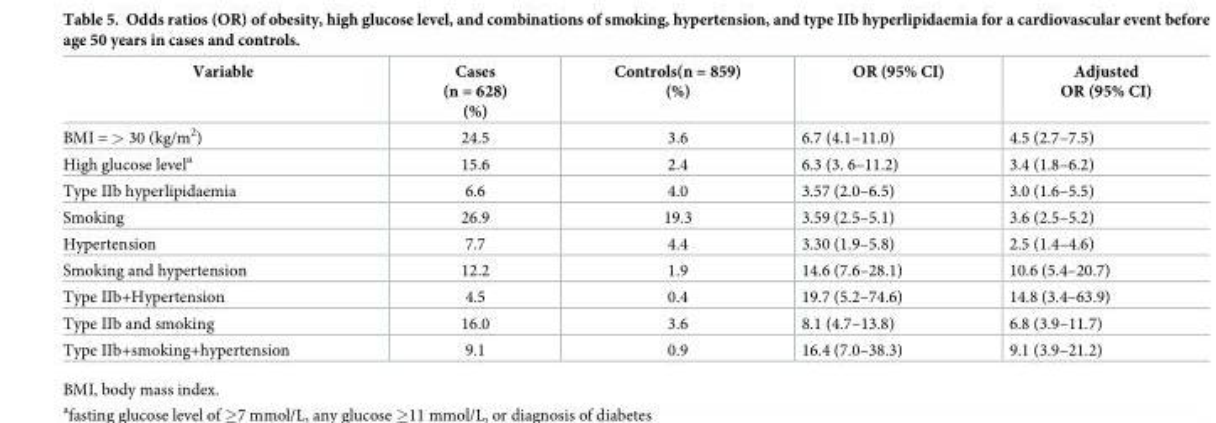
<table><thead><tr><td>Variable</td><td>Cases (n = 628) (%)</td><td>Controls(n = 859) (%)</td><td>OR (95% CI)</td><td>Adjusted OR (95% CI)</td></tr></thead><tbody><tr><td>BMI = &gt; 30 (kg/m<sup>2</sup>)</td><td>24.5</td><td>3.6</td><td>6.7 (4.1–11.0)</td><td>4.5 (2.7–7.5)</td></tr><tr><td>High glucose level<sup>a</sup></td><td>15.6</td><td>2.4</td><td>6.3 (3. 6–11.2)</td><td>3.4 (1.8–6.2)</td></tr><tr><td>Type IIb hyperlipidaemia</td><td>6.6</td><td>4.0</td><td>3.57 (2.0–6.5)</td><td>3.0 (1.6–5.5)</td></tr><tr><td>Smoking</td><td>26.9</td><td>19.3</td><td>3.59 (2.5–5.1)</td><td>3.6 (2.5–5.2)</td></tr><tr><td>Hypertension</td><td>7.7</td><td>4.4</td><td>3.30 (1.9–5.8)</td><td>2.5 (1.4–4.6)</td></tr><tr><td>Smoking and hypertension</td><td>12.2</td><td>1.9</td><td>14.6 (7.6–28.1)</td><td>10.6 (5.4–20.7)</td></tr><tr><td>Type IIb+Hypertension</td><td>4.5</td><td>0.4</td><td>19.7 (5.2–74.6)</td><td>14.8 (3.4–63.9)</td></tr><tr><td>Type IIb and smoking</td><td>16.0</td><td>3.6</td><td>8.1 (4.7–13.8)</td><td>6.8 (3.9–11.7)</td></tr><tr><td>Type IIb+smoking+hypertension</td><td>9.1</td><td>0.9</td><td>16.4 (7.0–38.3)</td><td>9.1 (3.9–21.2)</td></tr></tbody></table>